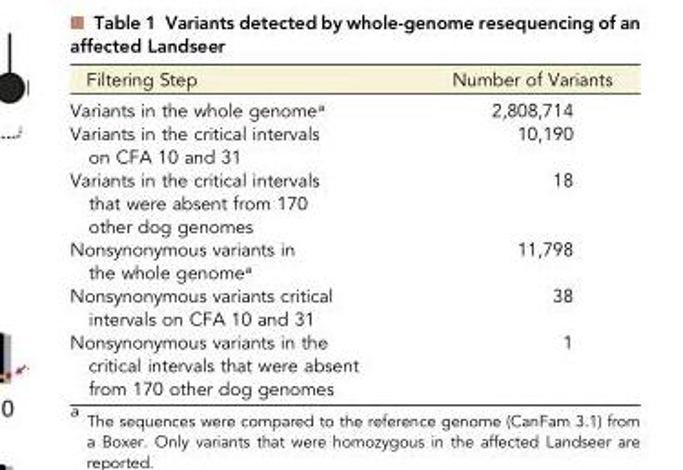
<table><thead><tr><td>Filtering Step</td><td>Number of Variants</td></tr></thead><tbody><tr><td>Variants in the whole genome<sup>a</sup></td><td>2,808,714</td></tr><tr><td>Variants in the critical intervals on CFA 10 and 31</td><td>10,190</td></tr><tr><td>Variants in the critical intervals that were absent from 170 other dog genomes</td><td>18</td></tr><tr><td>Nonsynonymous variants in the whole genome<sup>a</sup></td><td>11,798</td></tr><tr><td>Nonsynonymous variants critical intervals on CFA 10 and 31</td><td>38</td></tr><tr><td>Nonsynonymous variants in the critical intervals that were absent from 170 other dog genomes</td><td>1</td></tr></tbody></table>